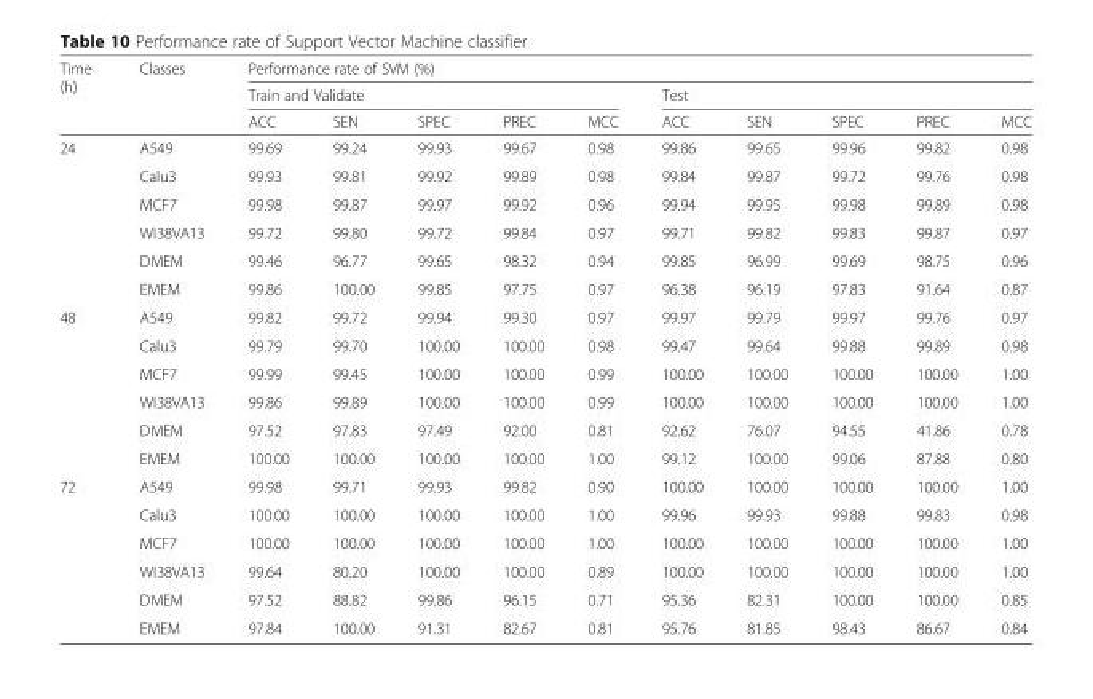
<table><thead><tr><td rowspan="3">Time (h)</td><td rowspan="3">Classes</td><td colspan="10">Performance rate of SVM (%)</td></tr><tr><td colspan="5">Train and Validate</td><td colspan="5">Test</td></tr><tr><td>ACC</td><td>SEN</td><td>SPEC</td><td>PREC</td><td>MCC</td><td>ACC</td><td>SEN</td><td>SPEC</td><td>PREC</td><td>MCC</td></tr></thead><tbody><tr><td rowspan="6">24</td><td>A549</td><td>99.69</td><td>99.24</td><td>99.93</td><td>99.67</td><td>0.98</td><td>99.86</td><td>99.65</td><td>99.96</td><td>99.82</td><td>0.98</td></tr><tr><td>Calu3</td><td>99.93</td><td>99.81</td><td>99.92</td><td>99.89</td><td>0.98</td><td>99.84</td><td>99.87</td><td>99.72</td><td>99.76</td><td>0.98</td></tr><tr><td>MCF7</td><td>99.98</td><td>99.87</td><td>99.97</td><td>99.92</td><td>0.96</td><td>99.94</td><td>99.95</td><td>99.98</td><td>99.89</td><td>0.98</td></tr><tr><td>WI38VA13</td><td>99.72</td><td>99.80</td><td>99.72</td><td>99.84</td><td>0.97</td><td>99.71</td><td>99.82</td><td>99.83</td><td>99.87</td><td>0.97</td></tr><tr><td>DMEM</td><td>99.46</td><td>96.77</td><td>99.65</td><td>98.32</td><td>0.94</td><td>99.85</td><td>96.99</td><td>99.69</td><td>98.75</td><td>0.96</td></tr><tr><td>EMEM</td><td>99.86</td><td>100.00</td><td>99.85</td><td>97.75</td><td>0.97</td><td>96.38</td><td>96.19</td><td>97.83</td><td>91.64</td><td>0.87</td></tr><tr><td rowspan="6">48</td><td>A549</td><td>99.82</td><td>99.72</td><td>99.94</td><td>99.30</td><td>0.97</td><td>99.97</td><td>99.79</td><td>99.97</td><td>99.76</td><td>0.97</td></tr><tr><td>Calu3</td><td>99.79</td><td>99.70</td><td>100.00</td><td>100.00</td><td>0.98</td><td>99.47</td><td>99.64</td><td>99.88</td><td>99.89</td><td>0.98</td></tr><tr><td>MCF7</td><td>99.99</td><td>99.45</td><td>100.00</td><td>100.00</td><td>0.99</td><td>100.00</td><td>100.00</td><td>100.00</td><td>100.00</td><td>1.00</td></tr><tr><td>WI38VA13</td><td>99.86</td><td>99.89</td><td>100.00</td><td>100.00</td><td>0.99</td><td>100.00</td><td>100.00</td><td>100.00</td><td>100.00</td><td>1.00</td></tr><tr><td>DMEM</td><td>97.52</td><td>97.83</td><td>97.49</td><td>92.00</td><td>0.81</td><td>92.62</td><td>76.07</td><td>94.55</td><td>41.86</td><td>0.78</td></tr><tr><td>EMEM</td><td>100.00</td><td>100.00</td><td>100.00</td><td>100.00</td><td>1.00</td><td>99.12</td><td>100.00</td><td>99.06</td><td>87.88</td><td>0.80</td></tr><tr><td rowspan="6">72</td><td>A549</td><td>99.98</td><td>99.71</td><td>99.93</td><td>99.82</td><td>0.90</td><td>100.00</td><td>100.00</td><td>100.00</td><td>100.00</td><td>1.00</td></tr><tr><td>Calu3</td><td>100.00</td><td>100.00</td><td>100.00</td><td>100.00</td><td>1.00</td><td>99.96</td><td>99.93</td><td>99.88</td><td>99.83</td><td>0.98</td></tr><tr><td>MCF7</td><td>100.00</td><td>100.00</td><td>100.00</td><td>100.00</td><td>1.00</td><td>100.00</td><td>100.00</td><td>100.00</td><td>100.00</td><td>1.00</td></tr><tr><td>WI38VA13</td><td>99.64</td><td>80.20</td><td>100.00</td><td>100.00</td><td>0.89</td><td>100.00</td><td>100.00</td><td>100.00</td><td>100.00</td><td>1.00</td></tr><tr><td>DMEM</td><td>97.52</td><td>88.82</td><td>99.86</td><td>96.15</td><td>0.71</td><td>95.36</td><td>82.31</td><td>100.00</td><td>100.00</td><td>0.85</td></tr><tr><td>EMEM</td><td>97.84</td><td>100.00</td><td>91.31</td><td>82.67</td><td>0.81</td><td>95.76</td><td>81.85</td><td>98.43</td><td>86.67</td><td>0.84</td></tr></tbody></table>